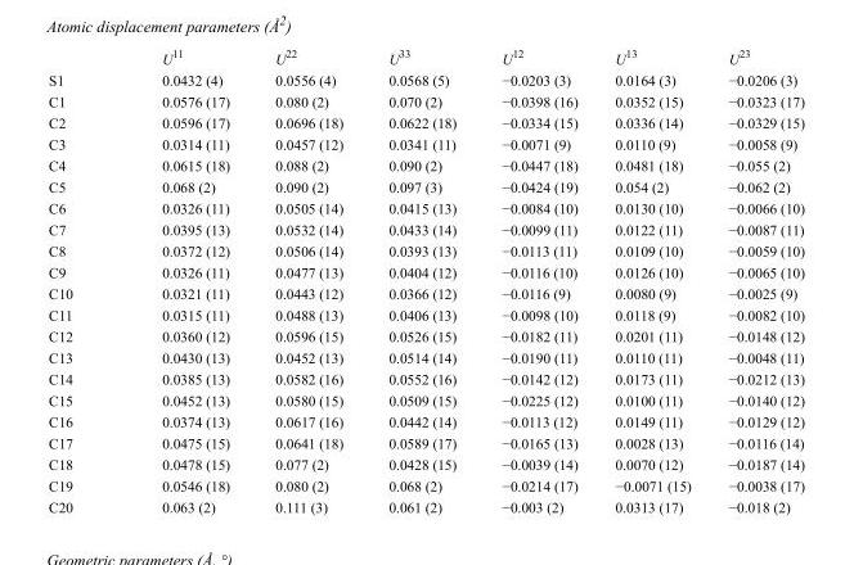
<table><thead><tr><td></td><td>U<sup>11</sup></td><td>U<sup>22</sup></td><td>U<sup>33</sup></td><td>U<sup>12</sup></td><td>U<sup>13</sup></td><td>U<sup>23</sup></td></tr></thead><tbody><tr><td>S1</td><td>0.0432 (4)</td><td>0.0556 (4)</td><td>0.0568 (5)</td><td>−0.0203 (3)</td><td>0.0164 (3)</td><td>−0.0206 (3)</td></tr><tr><td>C1</td><td>0.0576 (17)</td><td>0.080 (2)</td><td>0.070 (2)</td><td>−0.0398 (16)</td><td>0.0352 (15)</td><td>−0.0323 (17)</td></tr><tr><td>C2</td><td>0.0596 (17)</td><td>0.0696 (18)</td><td>0.0622 (18)</td><td>−0.0334 (15)</td><td>0.0336 (14)</td><td>−0.0329 (15)</td></tr><tr><td>C3</td><td>0.0314 (11)</td><td>0.0457 (12)</td><td>0.0341 (11)</td><td>−0.0071 (9)</td><td>0.0110 (9)</td><td>−0.0058 (9)</td></tr><tr><td>C4</td><td>0.0615 (18)</td><td>0.088 (2)</td><td>0.090 (2)</td><td>−0.0447 (18)</td><td>0.0481 (18)</td><td>−0.055 (2)</td></tr><tr><td>C5</td><td>0.068 (2)</td><td>0.090 (2)</td><td>0.097 (3)</td><td>−0.0424 (19)</td><td>0.054 (2)</td><td>−0.062 (2)</td></tr><tr><td>C6</td><td>0.0326 (11)</td><td>0.0505 (14)</td><td>0.0415 (13)</td><td>−0.0084 (10)</td><td>0.0130 (10)</td><td>−0.0066 (10)</td></tr><tr><td>C7</td><td>0.0395 (13)</td><td>0.0532 (14)</td><td>0.0433 (14)</td><td>−0.0099 (11)</td><td>0.0122 (11)</td><td>−0.0087 (11)</td></tr><tr><td>C8</td><td>0.0372 (12)</td><td>0.0506 (14)</td><td>0.0393 (13)</td><td>−0.0113 (11)</td><td>0.0109 (10)</td><td>−0.0059 (10)</td></tr><tr><td>C9</td><td>0.0326 (11)</td><td>0.0477 (13)</td><td>0.0404 (12)</td><td>−0.0116 (10)</td><td>0.0126 (10)</td><td>−0.0065 (10)</td></tr><tr><td>C10</td><td>0.0321 (11)</td><td>0.0443 (12)</td><td>0.0366 (12)</td><td>−0.0116 (9)</td><td>0.0080 (9)</td><td>−0.0025 (9)</td></tr><tr><td>C11</td><td>0.0315 (11)</td><td>0.0488 (13)</td><td>0.0406 (13)</td><td>−0.0098 (10)</td><td>0.0118 (9)</td><td>−0.0082 (10)</td></tr><tr><td>C12</td><td>0.0360 (12)</td><td>0.0596 (15)</td><td>0.0526 (15)</td><td>−0.0182 (11)</td><td>0.0201 (11)</td><td>−0.0148 (12)</td></tr><tr><td>C13</td><td>0.0430 (13)</td><td>0.0452 (13)</td><td>0.0514 (14)</td><td>−0.0190 (11)</td><td>0.0110 (11)</td><td>−0.0048 (11)</td></tr><tr><td>C14</td><td>0.0385 (13)</td><td>0.0582 (16)</td><td>0.0552 (16)</td><td>−0.0142 (12)</td><td>0.0173 (11)</td><td>−0.0212 (13)</td></tr><tr><td>C15</td><td>0.0452 (13)</td><td>0.0580 (15)</td><td>0.0509 (15)</td><td>−0.0225 (12)</td><td>0.0100 (11)</td><td>−0.0140 (12)</td></tr><tr><td>C16</td><td>0.0374 (13)</td><td>0.0617 (16)</td><td>0.0442 (14)</td><td>−0.0113 (12)</td><td>0.0149 (11)</td><td>−0.0129 (12)</td></tr><tr><td>C17</td><td>0.0475 (15)</td><td>0.0641 (18)</td><td>0.0589 (17)</td><td>−0.0165 (13)</td><td>0.0028 (13)</td><td>−0.0116 (14)</td></tr><tr><td>C18</td><td>0.0478 (15)</td><td>0.077 (2)</td><td>0.0428 (15)</td><td>−0.0039 (14)</td><td>0.0070 (12)</td><td>−0.0187 (14)</td></tr><tr><td>C19</td><td>0.0546 (18)</td><td>0.080 (2)</td><td>0.068 (2)</td><td>−0.0214 (17)</td><td>−0.0071 (15)</td><td>−0.0038 (17)</td></tr><tr><td>C20</td><td>0.063 (2)</td><td>0.111 (3)</td><td>0.061 (2)</td><td>−0.003 (2)</td><td>0.0313 (17)</td><td>−0.018 (2)</td></tr></tbody></table>